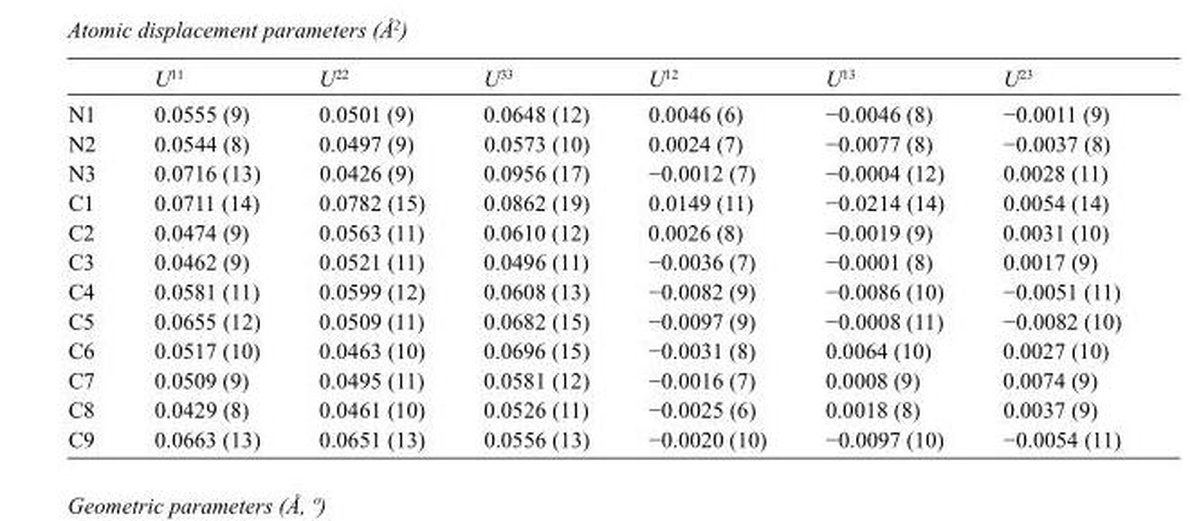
<table><thead><tr><td></td><td>U<sup>11</sup></td><td>U<sup>22</sup></td><td>U<sup>33</sup></td><td>U<sup>12</sup></td><td>U<sup>13</sup></td><td>U<sup>23</sup></td></tr></thead><tbody><tr><td>N1</td><td>0.0555 (9)</td><td>0.0501 (9)</td><td>0.0648 (12)</td><td>0.0046 (6)</td><td>−0.0046 (8)</td><td>−0.0011 (9)</td></tr><tr><td>N2</td><td>0.0544 (8)</td><td>0.0497 (9)</td><td>0.0573 (10)</td><td>0.0024 (7)</td><td>−0.0077 (8)</td><td>−0.0037 (8)</td></tr><tr><td>N3</td><td>0.0716 (13)</td><td>0.0426 (9)</td><td>0.0956 (17)</td><td>−0.0012 (7)</td><td>−0.0004 (12)</td><td>0.0028 (11)</td></tr><tr><td>C1</td><td>0.0711 (14)</td><td>0.0782 (15)</td><td>0.0862 (19)</td><td>0.0149 (11)</td><td>−0.0214 (14)</td><td>0.0054 (14)</td></tr><tr><td>C2</td><td>0.0474 (9)</td><td>0.0563 (11)</td><td>0.0610 (12)</td><td>0.0026 (8)</td><td>−0.0019 (9)</td><td>0.0031 (10)</td></tr><tr><td>C3</td><td>0.0462 (9)</td><td>0.0521 (11)</td><td>0.0496 (11)</td><td>−0.0036 (7)</td><td>−0.0001 (8)</td><td>0.0017 (9)</td></tr><tr><td>C4</td><td>0.0581 (11)</td><td>0.0599 (12)</td><td>0.0608 (13)</td><td>−0.0082 (9)</td><td>−0.0086 (10)</td><td>−0.0051 (11)</td></tr><tr><td>C5</td><td>0.0655 (12)</td><td>0.0509 (11)</td><td>0.0682 (15)</td><td>−0.0097 (9)</td><td>−0.0008 (11)</td><td>−0.0082 (10)</td></tr><tr><td>C6</td><td>0.0517 (10)</td><td>0.0463 (10)</td><td>0.0696 (15)</td><td>−0.0031 (8)</td><td>0.0064 (10)</td><td>0.0027 (10)</td></tr><tr><td>C7</td><td>0.0509 (9)</td><td>0.0495 (11)</td><td>0.0581 (12)</td><td>−0.0016 (7)</td><td>0.0008 (9)</td><td>0.0074 (9)</td></tr><tr><td>C8</td><td>0.0429 (8)</td><td>0.0461 (10)</td><td>0.0526 (11)</td><td>−0.0025 (6)</td><td>0.0018 (8)</td><td>0.0037 (9)</td></tr><tr><td>C9</td><td>0.0663 (13)</td><td>0.0651 (13)</td><td>0.0556 (13)</td><td>−0.0020 (10)</td><td>−0.0097 (10)</td><td>−0.0054 (11)</td></tr></tbody></table>